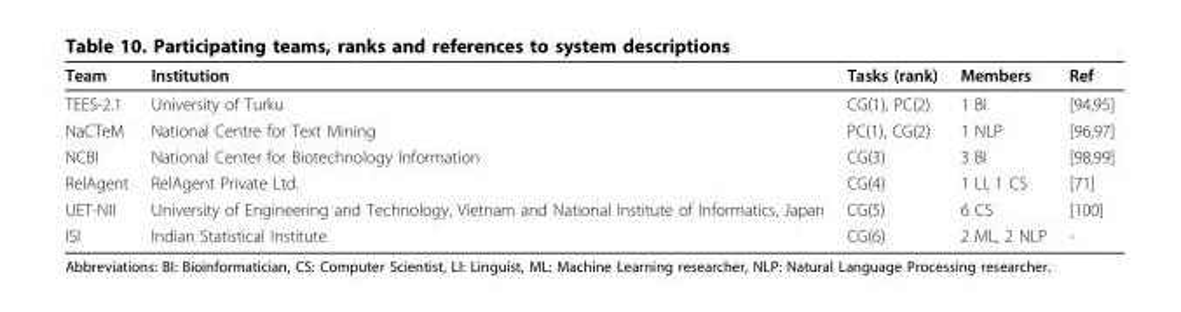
<table><thead><tr><td>Team</td><td>Institution</td><td>Tasks (rank)</td><td>Members</td><td>Ref</td></tr></thead><tbody><tr><td>TEES-2.1</td><td>University of Turku</td><td>CG(1), PC(2)</td><td>1 BI</td><td>[94,95]</td></tr><tr><td>NaCTeM</td><td>National Centre for Text Mining</td><td>PC(1), CG(2)</td><td>1 NLP</td><td>[96,97]</td></tr><tr><td>NCBI</td><td>National Center for Biotechnology Information</td><td>CG(3)</td><td>3 BI</td><td>[98,99]</td></tr><tr><td>RelAgent</td><td>RelAgent Private Ltd.</td><td>CG(4)</td><td>1 LI, 1 CS</td><td>[71]</td></tr><tr><td>UET-NII</td><td>University of Engineering and Technology, Vietnam and National Institute of Informatics, Japan</td><td>CG(5)</td><td>6 CS</td><td>[100]</td></tr><tr><td>ISI</td><td>Indian Statistical Institute</td><td>CG(6)</td><td>2 ML, 2 NLP</td><td>-</td></tr></tbody></table>